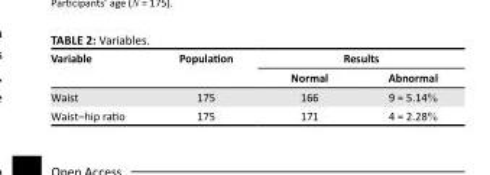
<table><thead><tr><td rowspan="2">Variable</td><td rowspan="2">Population</td><td colspan="2">Results</td></tr><tr><td>Normal</td><td>Abnormal</td></tr></thead><tbody><tr><td>Waist</td><td>175</td><td>166</td><td>9 = 5.14%</td></tr><tr><td>Waist–hip ratio</td><td>175</td><td>171</td><td>4 = 2.28%</td></tr></tbody></table>